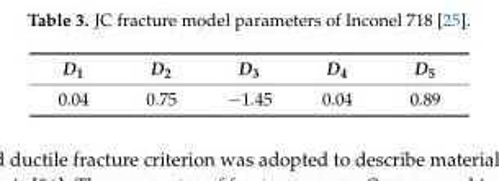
<table><thead><tr><td>D<sub>1</sub></td><td>D<sub>2</sub></td><td>D<sub>3</sub></td><td>D<sub>4</sub></td><td>D<sub>5</sub></td></tr></thead><tbody><tr><td>0.04</td><td>0.75</td><td>−1.45</td><td>0.04</td><td>0.89</td></tr></tbody></table>